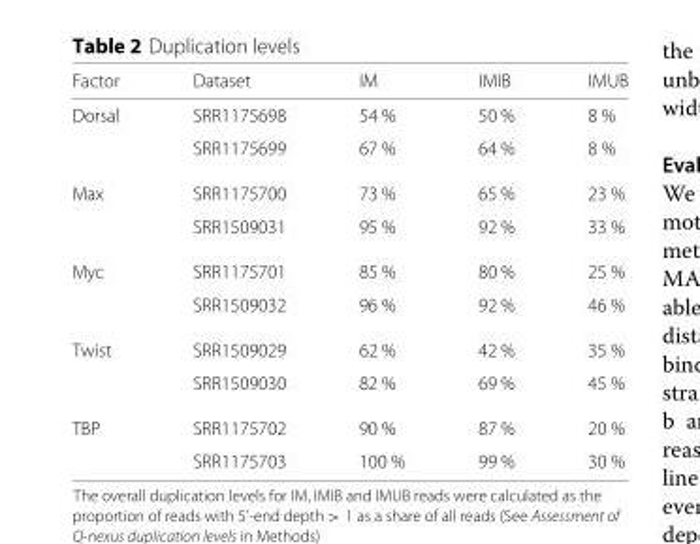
<table><thead><tr><td>Factor</td><td>Dataset</td><td>IM</td><td>IMIB</td><td>IMUB</td></tr></thead><tbody><tr><td rowspan="2">Dorsal</td><td>SRR1175698</td><td>54 %</td><td>50 %</td><td>8 %</td></tr><tr><td>SRR1175699</td><td>67 %</td><td>64 %</td><td>8 %</td></tr><tr><td rowspan="2">Max</td><td>SRR1175700</td><td>73 %</td><td>65 %</td><td>23 %</td></tr><tr><td>SRR1509031</td><td>95 %</td><td>92 %</td><td>33 %</td></tr><tr><td rowspan="2">Myc</td><td>SRR1175701</td><td>85 %</td><td>80 %</td><td>25 %</td></tr><tr><td>SRR1509032</td><td>96 %</td><td>92 %</td><td>46 %</td></tr><tr><td rowspan="2">Twist</td><td>SRR1509029</td><td>62 %</td><td>42 %</td><td>35 %</td></tr><tr><td>SRR1509030</td><td>82 %</td><td>69 %</td><td>45 %</td></tr><tr><td rowspan="2">TBP</td><td>SRR1175702</td><td>90 %</td><td>87 %</td><td>20 %</td></tr><tr><td>SRR1175703</td><td>100 %</td><td>99 %</td><td>30 %</td></tr></tbody></table>